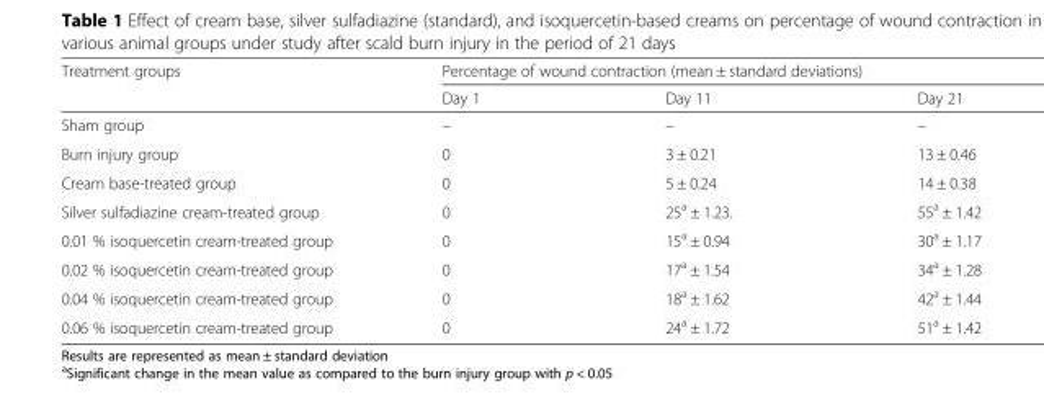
<table><thead><tr><td rowspan="2">Treatment groups</td><td colspan="3">Percentage of wound contraction (mean ± standard deviations)</td></tr><tr><td>Day 1</td><td>Day 11</td><td>Day 21</td></tr></thead><tbody><tr><td>Sham group</td><td>–</td><td>–</td><td>–</td></tr><tr><td>Burn injury group</td><td>0</td><td>3 ± 0.21</td><td>13 ± 0.46</td></tr><tr><td>Cream base-treated group</td><td>0</td><td>5 ± 0.24</td><td>14 ± 0.38</td></tr><tr><td>Silver sulfadiazine cream-treated group</td><td>0</td><td>25<sup>a</sup> ± 1.23.</td><td>55<sup>a</sup> ± 1.42</td></tr><tr><td>0.01 % isoquercetin cream-treated group</td><td>0</td><td>15<sup>a</sup> ± 0.94</td><td>30<sup>a</sup> ± 1.17</td></tr><tr><td>0.02 % isoquercetin cream-treated group</td><td>0</td><td>17<sup>a</sup> ± 1.54</td><td>34<sup>a</sup> ± 1.28</td></tr><tr><td>0.04 % isoquercetin cream-treated group</td><td>0</td><td>18<sup>a</sup> ± 1.62</td><td>42<sup>a</sup> ± 1.44</td></tr><tr><td>0.06 % isoquercetin cream-treated group</td><td>0</td><td>24<sup>a</sup> ± 1.72</td><td>51<sup>a</sup> ± 1.42</td></tr></tbody></table>